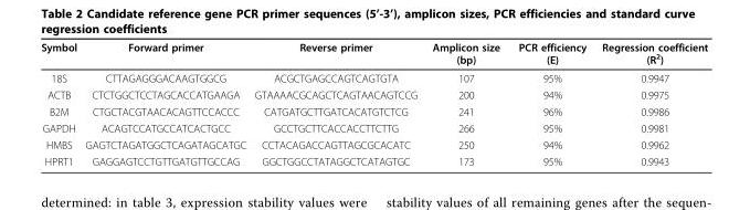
<table><thead><tr><td>Symbol</td><td>Forward primer</td><td>Reverse primer</td><td>Amplicon size (bp)</td><td>PCR efficiency (E)</td><td>Regression coefficient (R<sup>2</sup>)</td></tr></thead><tbody><tr><td>18S</td><td>CTTAGAGGGACAAGTGGCG</td><td>ACGCTGAGCCAGTCAGTGTA</td><td>107</td><td>95%</td><td>0.9947</td></tr><tr><td>ACTB</td><td>CTCTGGCTCCTAGCACCATGAAGA</td><td>GTAAAACGCAGCTCAGTAACAGTCCG</td><td>200</td><td>94%</td><td>0.9975</td></tr><tr><td>B2M</td><td>CTGCTACGTAACACAGTTCCACCC</td><td>CATGATGCTTGATCACATGTCTCG</td><td>241</td><td>96%</td><td>0.9986</td></tr><tr><td>GAPDH</td><td>ACAGTCCATGCCATCACTGCC</td><td>GCCTGCTTCACCACCTTCTTG</td><td>266</td><td>95%</td><td>0.9981</td></tr><tr><td>HMBS</td><td>GAGTCTAGATGGCTCAGATAGCATGC</td><td>CCTACAGACCAGTTAGCGCACATC</td><td>250</td><td>94%</td><td>0.9962</td></tr><tr><td>HPRT1</td><td>GAGGAGTCCTGTTGATGTTGCCAG</td><td>GGCTGGCCTATAGGCTCATAGTGC</td><td>173</td><td>95%</td><td>0.9943</td></tr></tbody></table>